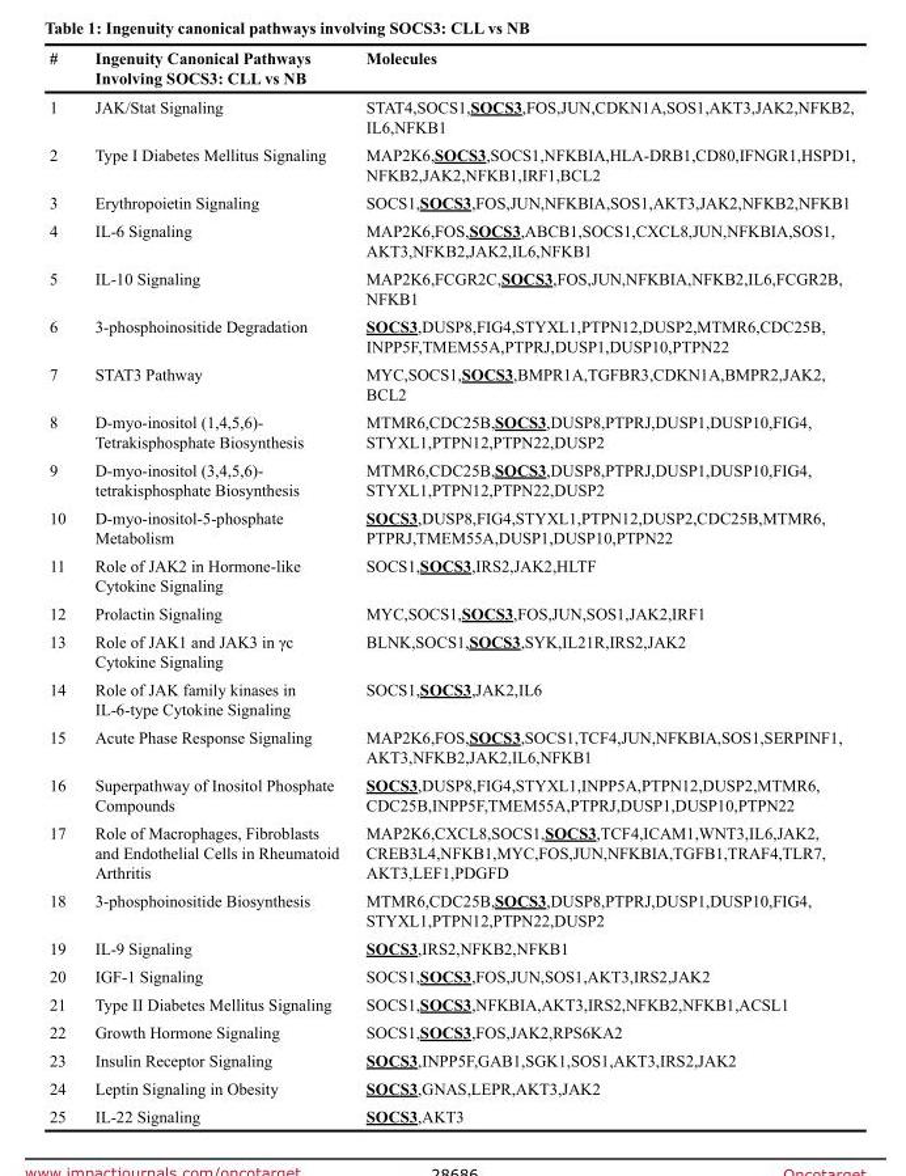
<table><thead><tr><td>#</td><td>Ingenuity Canonical Pathways Involving SOCS3: CLL vs NB</td><td>Molecules</td></tr></thead><tbody><tr><td>1</td><td>JAK/Stat Signaling</td><td>STAT4,SOCS1,SOCS3,FOS,JUN,CDKN1A,SOS1,AKT3,JAK2,NFKB2, IL6,NFKB1</td></tr><tr><td>2</td><td>Type I Diabetes Mellitus Signaling</td><td>MAP2K6,SOCS3,SOCS1,NFKBIA,HLA-DRB1,CD80,IFNGR1,HSPD1, NFKB2,JAK2,NFKB1,IRF1,BCL2</td></tr><tr><td>3</td><td>Erythropoietin Signaling</td><td>SOCS1,SOCS3,FOS,JUN,NFKBIA,SOS1,AKT3,JAK2,NFKB2,NFKB1</td></tr><tr><td>4</td><td>IL-6 Signaling</td><td>MAP2K6,FOS,SOCS3,ABCB1,SOCS1,CXCL8,JUN,NFKBIA,SOS1, AKT3,NFKB2,JAK2,IL6,NFKB1</td></tr><tr><td>5</td><td>IL-10 Signaling</td><td>MAP2K6,FCGR2C,SOCS3,FOS,JUN,NFKBIA,NFKB2,IL6,FCGR2B, NFKB1</td></tr><tr><td>6</td><td>3-phosphoinositide Degradation</td><td>SOCS3,DUSP8,FIG4,STYXL1,PTPN12,DUSP2,MTMR6,CDC25B, INPP5F,TMEM55A,PTPRJ,DUSP1,DUSP10,PTPN22</td></tr><tr><td>7</td><td>STAT3 Pathway</td><td>MYC,SOCS1,SOCS3,BMPR1A,TGFBR3,CDKN1A,BMPR2,JAK2, BCL2</td></tr><tr><td>8</td><td>D-myo-inositol (1,4,5,6)- Tetrakisphosphate Biosynthesis</td><td>MTMR6,CDC25B,SOCS3,DUSP8,PTPRJ,DUSP1,DUSP10,FIG4, STYXL1,PTPN12,PTPN22,DUSP2</td></tr><tr><td>9</td><td>D-myo-inositol (3,4,5,6)- tetrakisphosphate Biosynthesis</td><td>MTMR6,CDC25B,SOCS3,DUSP8,PTPRJ,DUSP1,DUSP10,FIG4, STYXL1,PTPN12,PTPN22,DUSP2</td></tr><tr><td>10</td><td>D-myo-inositol-5-phosphate Metabolism</td><td>SOCS3,DUSP8,FIG4,STYXL1,PTPN12,DUSP2,CDC25B,MTMR6, PTPRJ,TMEM55A,DUSP1,DUSP10,PTPN22</td></tr><tr><td>11</td><td>Role of JAK2 in Hormone-like Cytokine Signaling</td><td>SOCS1,SOCS3,IRS2,JAK2,HLTF</td></tr><tr><td>12</td><td>Prolactin Signaling</td><td>MYC,SOCS1,SOCS3,FOS,JUN,SOS1,JAK2,IRF1</td></tr><tr><td>13</td><td>Role of JAK1 and JAK3 in γc Cytokine Signaling</td><td>BLNK,SOCS1,SOCS3,SYK,IL21R,IRS2,JAK2</td></tr><tr><td>14</td><td>Role of JAK family kinases in IL-6-type Cytokine Signaling</td><td>SOCS1,SOCS3,JAK2,IL6</td></tr><tr><td>15</td><td>Acute Phase Response Signaling</td><td>MAP2K6,FOS,SOCS3,SOCS1,TCF4,JUN,NFKBIA,SOS1,SERPINF1, AKT3,NFKB2,JAK2,IL6,NFKB1</td></tr><tr><td>16</td><td>Superpathway of Inositol Phosphate Compounds</td><td>SOCS3,DUSP8,FIG4,STYXL1,INPP5A,PTPN12,DUSP2,MTMR6, CDC25B,INPP5F,TMEM55A,PTPRJ,DUSP1,DUSP10,PTPN22</td></tr><tr><td>17</td><td>Role of Macrophages, Fibroblasts and Endothelial Cells in Rheumatoid Arthritis</td><td>MAP2K6,CXCL8,SOCS1,SOCS3,TCF4,ICAM1,WNT3,IL6,JAK2, CREB3L4,NFKB1,MYC,FOS,JUN,NFKBIA,TGFB1,TRAF4,TLR7, AKT3,LEF1,PDGFD</td></tr><tr><td>18</td><td>3-phosphoinositide Biosynthesis</td><td>MTMR6,CDC25B,SOCS3,DUSP8,PTPRJ,DUSP1,DUSP10,FIG4, STYXL1,PTPN12,PTPN22,DUSP2</td></tr><tr><td>19</td><td>IL-9 Signaling</td><td>SOCS3,IRS2,NFKB2,NFKB1</td></tr><tr><td>20</td><td>IGF-1 Signaling</td><td>SOCS1,SOCS3,FOS,JUN,SOS1,AKT3,IRS2,JAK2</td></tr><tr><td>21</td><td>Type II Diabetes Mellitus Signaling</td><td>SOCS1,SOCS3,NFKBIA,AKT3,IRS2,NFKB2,NFKB1,ACSL1</td></tr><tr><td>22</td><td>Growth Hormone Signaling</td><td>SOCS1,SOCS3,FOS,JAK2,RPS6KA2</td></tr><tr><td>23</td><td>Insulin Receptor Signaling</td><td>SOCS3,INPP5F,GAB1,SGK1,SOS1,AKT3,IRS2,JAK2</td></tr><tr><td>24</td><td>Leptin Signaling in Obesity</td><td>SOCS3,GNAS,LEPR,AKT3,JAK2</td></tr><tr><td>25</td><td>IL-22 Signaling</td><td>SOCS3,AKT3</td></tr></tbody></table>